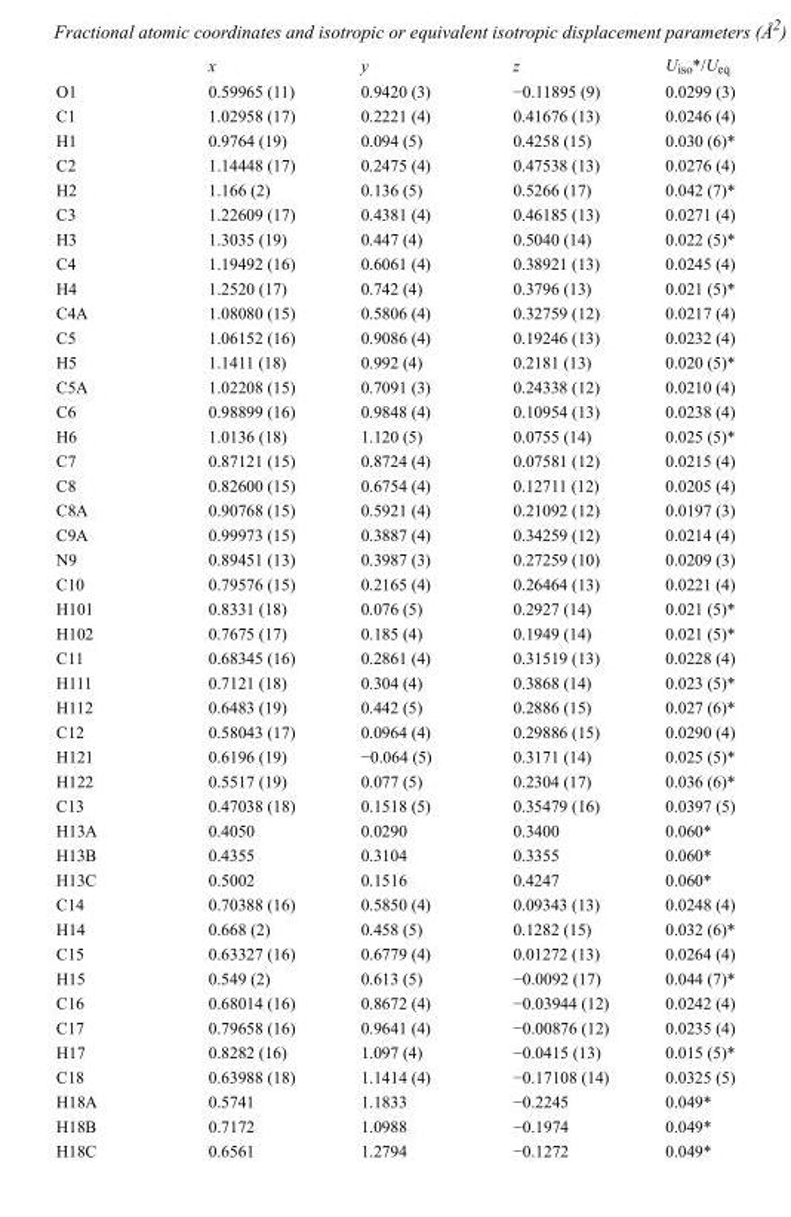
<table><thead><tr><td></td><td>x</td><td>y</td><td>z</td><td>U<sub>iso</sub>*/U<sub>eq</sub></td></tr></thead><tbody><tr><td>O1</td><td>0.59965 (11)</td><td>0.9420 (3)</td><td>−0.11895 (9)</td><td>0.0299 (3)</td></tr><tr><td>C1</td><td>1.02958 (17)</td><td>0.2221 (4)</td><td>0.41676 (13)</td><td>0.0246 (4)</td></tr><tr><td>H1</td><td>0.9764 (19)</td><td>0.094 (5)</td><td>0.4258 (15)</td><td>0.030 (6)*</td></tr><tr><td>C2</td><td>1.14448 (17)</td><td>0.2475 (4)</td><td>0.47538 (13)</td><td>0.0276 (4)</td></tr><tr><td>H2</td><td>1.166 (2)</td><td>0.136 (5)</td><td>0.5266 (17)</td><td>0.042 (7)*</td></tr><tr><td>C3</td><td>1.22609 (17)</td><td>0.4381 (4)</td><td>0.46185 (13)</td><td>0.0271 (4)</td></tr><tr><td>H3</td><td>1.3035 (19)</td><td>0.447 (4)</td><td>0.5040 (14)</td><td>0.022 (5)*</td></tr><tr><td>C4</td><td>1.19492 (16)</td><td>0.6061 (4)</td><td>0.38921 (13)</td><td>0.0245 (4)</td></tr><tr><td>H4</td><td>1.2520 (17)</td><td>0.742 (4)</td><td>0.3796 (13)</td><td>0.021 (5)*</td></tr><tr><td>C4A</td><td>1.08080 (15)</td><td>0.5806 (4)</td><td>0.32759 (12)</td><td>0.0217 (4)</td></tr><tr><td>C5</td><td>1.06152 (16)</td><td>0.9086 (4)</td><td>0.19246 (13)</td><td>0.0232 (4)</td></tr><tr><td>H5</td><td>1.1411 (18)</td><td>0.992 (4)</td><td>0.2181 (13)</td><td>0.020 (5)*</td></tr><tr><td>C5A</td><td>1.02208 (15)</td><td>0.7091 (3)</td><td>0.24338 (12)</td><td>0.0210 (4)</td></tr><tr><td>C6</td><td>0.98899 (16)</td><td>0.9848 (4)</td><td>0.10954 (13)</td><td>0.0238 (4)</td></tr><tr><td>H6</td><td>1.0136 (18)</td><td>1.120 (5)</td><td>0.0755 (14)</td><td>0.025 (5)*</td></tr><tr><td>C7</td><td>0.87121 (15)</td><td>0.8724 (4)</td><td>0.07581 (12)</td><td>0.0215 (4)</td></tr><tr><td>C8</td><td>0.82600 (15)</td><td>0.6754 (4)</td><td>0.12711 (12)</td><td>0.0205 (4)</td></tr><tr><td>C8A</td><td>0.90768 (15)</td><td>0.5921 (4)</td><td>0.21092 (12)</td><td>0.0197 (3)</td></tr><tr><td>C9A</td><td>0.99973 (15)</td><td>0.3887 (4)</td><td>0.34259 (12)</td><td>0.0214 (4)</td></tr><tr><td>N9</td><td>0.89451 (13)</td><td>0.3987 (3)</td><td>0.27259 (10)</td><td>0.0209 (3)</td></tr><tr><td>C10</td><td>0.79576 (15)</td><td>0.2165 (4)</td><td>0.26464 (13)</td><td>0.0221 (4)</td></tr><tr><td>H101</td><td>0.8331 (18)</td><td>0.076 (5)</td><td>0.2927 (14)</td><td>0.021 (5)*</td></tr><tr><td>H102</td><td>0.7675 (17)</td><td>0.185 (4)</td><td>0.1949 (14)</td><td>0.021 (5)*</td></tr><tr><td>C11</td><td>0.68345 (16)</td><td>0.2861 (4)</td><td>0.31519 (13)</td><td>0.0228 (4)</td></tr><tr><td>H111</td><td>0.7121 (18)</td><td>0.304 (4)</td><td>0.3868 (14)</td><td>0.023 (5)*</td></tr><tr><td>H112</td><td>0.6483 (19)</td><td>0.442 (5)</td><td>0.2886 (15)</td><td>0.027 (6)*</td></tr><tr><td>C12</td><td>0.58043 (17)</td><td>0.0964 (4)</td><td>0.29886 (15)</td><td>0.0290 (4)</td></tr><tr><td>H121</td><td>0.6196 (19)</td><td>−0.064 (5)</td><td>0.3171 (14)</td><td>0.025 (5)*</td></tr><tr><td>H122</td><td>0.5517 (19)</td><td>0.077 (5)</td><td>0.2304 (17)</td><td>0.036 (6)*</td></tr><tr><td>C13</td><td>0.47038 (18)</td><td>0.1518 (5)</td><td>0.35479 (16)</td><td>0.0397 (5)</td></tr><tr><td>H13A</td><td>0.4050</td><td>0.0290</td><td>0.3400</td><td>0.060*</td></tr><tr><td>H13B</td><td>0.4355</td><td>0.3104</td><td>0.3355</td><td>0.060*</td></tr><tr><td>H13C</td><td>0.5002</td><td>0.1516</td><td>0.4247</td><td>0.060*</td></tr><tr><td>C14</td><td>0.70388 (16)</td><td>0.5850 (4)</td><td>0.09343 (13)</td><td>0.0248 (4)</td></tr><tr><td>H14</td><td>0.668 (2)</td><td>0.458 (5)</td><td>0.1282 (15)</td><td>0.032 (6)*</td></tr><tr><td>C15</td><td>0.63327 (16)</td><td>0.6779 (4)</td><td>0.01272 (13)</td><td>0.0264 (4)</td></tr><tr><td>H15</td><td>0.549 (2)</td><td>0.613 (5)</td><td>−0.0092 (17)</td><td>0.044 (7)*</td></tr><tr><td>C16</td><td>0.68014 (16)</td><td>0.8672 (4)</td><td>−0.03944 (12)</td><td>0.0242 (4)</td></tr><tr><td>C17</td><td>0.79658 (16)</td><td>0.9641 (4)</td><td>−0.00876 (12)</td><td>0.0235 (4)</td></tr><tr><td>H17</td><td>0.8282 (16)</td><td>1.097 (4)</td><td>−0.0415 (13)</td><td>0.015 (5)*</td></tr><tr><td>C18</td><td>0.63988 (18)</td><td>1.1414 (4)</td><td>−0.17108 (14)</td><td>0.0325 (5)</td></tr><tr><td>H18A</td><td>0.5741</td><td>1.1833</td><td>−0.2245</td><td>0.049*</td></tr><tr><td>H18B</td><td>0.7172</td><td>1.0988</td><td>−0.1974</td><td>0.049*</td></tr><tr><td>H18C</td><td>0.6561</td><td>1.2794</td><td>−0.1272</td><td>0.049*</td></tr></tbody></table>